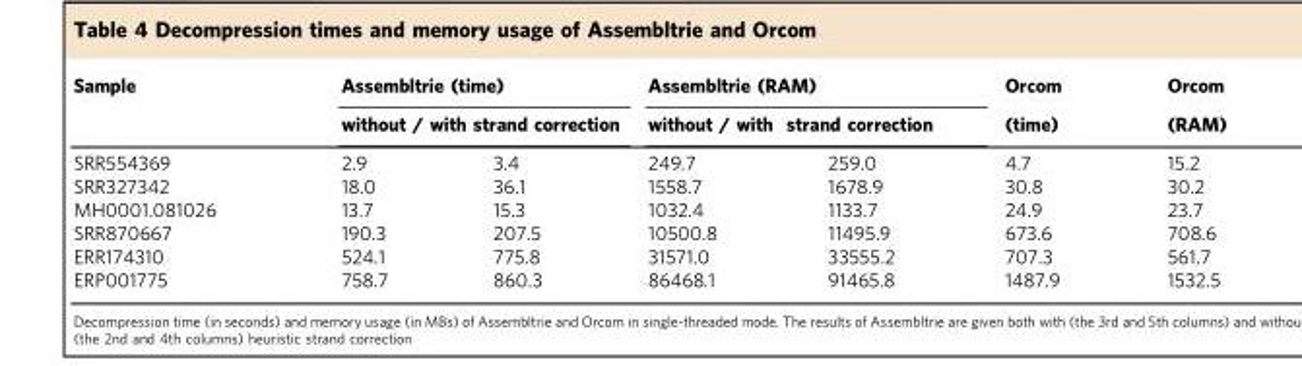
<table><thead><tr><td rowspan="3">Sample SRR554369</td><td rowspan="2" colspan="2">Assembltrie (time) without / with strand correction</td><td rowspan="2" colspan="2">Assembltrie (RAM) without / with strand correction</td><td rowspan="3">Orcom (time) 4.7</td><td rowspan="3">Orcom (RAM) 15.2</td></tr><tr></tr><tr><td>2.9</td><td>3.4</td><td>249.7</td><td>259.0</td></tr></thead><tbody><tr><td>SRR327342</td><td>18.0</td><td>36.1</td><td>1558.7</td><td>1678.9</td><td>30.8</td><td>30.2</td></tr><tr><td>MH0001.081026</td><td>13.7</td><td>15.3</td><td>1032.4</td><td>1133.7</td><td>24.9</td><td>23.7</td></tr><tr><td>SRR870667</td><td>190.3</td><td>207.5</td><td>10500.8</td><td>11495.9</td><td>673.6</td><td>708.6</td></tr><tr><td>ERR174310</td><td>524.1</td><td>775.8</td><td>31571.0</td><td>33555.2</td><td>707.3</td><td>561.7</td></tr><tr><td>ERP001775</td><td>758.7</td><td>860.3</td><td>86468.1</td><td>91465.8</td><td>1487.9</td><td>1532.5</td></tr></tbody></table>